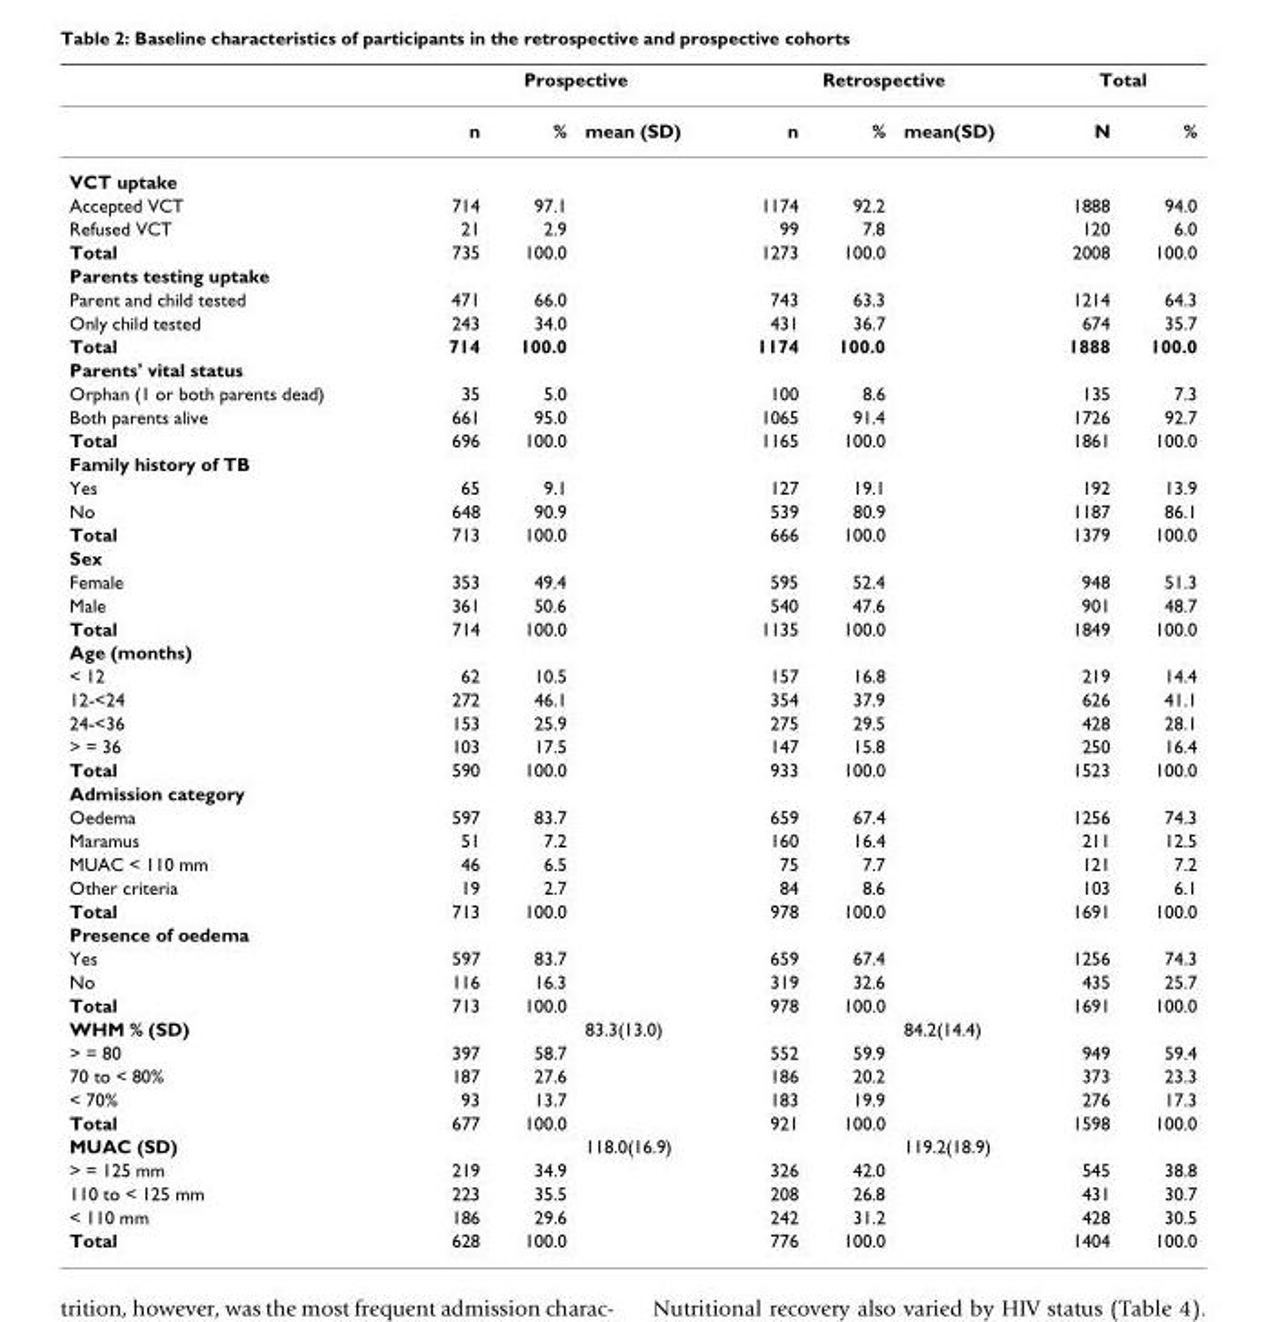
<table><thead><tr><td rowspan="2"></td><td colspan="3">Prospective</td><td colspan="3">Retrospective</td><td colspan="2">Total</td></tr><tr><td>n</td><td>%</td><td>mean (SD)</td><td>n</td><td>%</td><td>mean(SD)</td><td>N</td><td>%</td></tr></thead><tbody><tr><td colspan="9">VCT uptake</td></tr><tr><td>Accepted VCT</td><td>714</td><td>97.1</td><td></td><td>1174</td><td>92.2</td><td></td><td>1888</td><td>94.0</td></tr><tr><td>Refused VCT</td><td>21</td><td>2.9</td><td></td><td>99</td><td>7.8</td><td></td><td>120</td><td>6.0</td></tr><tr><td>Total</td><td>735</td><td>100.0</td><td></td><td>1273</td><td>100.0</td><td></td><td>2008</td><td>100.0</td></tr><tr><td colspan="9">Parents testing uptake</td></tr><tr><td>Parent and child tested</td><td>471</td><td>66.0</td><td></td><td>743</td><td>63.3</td><td></td><td>1214</td><td>64.3</td></tr><tr><td>Only child tested</td><td>243</td><td>34.0</td><td></td><td>431</td><td>36.7</td><td></td><td>674</td><td>35.7</td></tr><tr><td>Total</td><td>714</td><td>100.0</td><td></td><td>1174</td><td>100.0</td><td></td><td>1888</td><td>100.0</td></tr><tr><td colspan="9">Parents&#x27; vital status</td></tr><tr><td>Orphan (1 or both parents dead)</td><td>35</td><td>5.0</td><td></td><td>100</td><td>8.6</td><td></td><td>135</td><td>7.3</td></tr><tr><td>Both parents alive</td><td>661</td><td>95.0</td><td></td><td>1065</td><td>91.4</td><td></td><td>1726</td><td>92.7</td></tr><tr><td>Total</td><td>696</td><td>100.0</td><td></td><td>1165</td><td>100.0</td><td></td><td>1861</td><td>100.0</td></tr><tr><td colspan="9">Family history of TB</td></tr><tr><td>Yes</td><td>65</td><td>9.1</td><td></td><td>127</td><td>19.1</td><td></td><td>192</td><td>13.9</td></tr><tr><td>No</td><td>648</td><td>90.9</td><td></td><td>539</td><td>80.9</td><td></td><td>1187</td><td>86.1</td></tr><tr><td>Total</td><td>713</td><td>100.0</td><td></td><td>666</td><td>100.0</td><td></td><td>1379</td><td>100.0</td></tr><tr><td colspan="9">Sex</td></tr><tr><td>Female</td><td>353</td><td>49.4</td><td></td><td>595</td><td>52.4</td><td></td><td>948</td><td>51.3</td></tr><tr><td>Male</td><td>361</td><td>50.6</td><td></td><td>540</td><td>47.6</td><td></td><td>901</td><td>48.7</td></tr><tr><td>Total</td><td>714</td><td>100.0</td><td></td><td>1135</td><td>100.0</td><td></td><td>1849</td><td>100.0</td></tr><tr><td colspan="9">Age (months)</td></tr><tr><td>&lt; 12</td><td>62</td><td>10.5</td><td></td><td>157</td><td>16.8</td><td></td><td>219</td><td>14.4</td></tr><tr><td>12-&lt;24</td><td>272</td><td>46.1</td><td></td><td>354</td><td>37.9</td><td></td><td>626</td><td>41.1</td></tr><tr><td>24-&lt;36</td><td>153</td><td>25.9</td><td></td><td>275</td><td>29.5</td><td></td><td>428</td><td>28.1</td></tr><tr><td>&gt; = 36</td><td>103</td><td>17.5</td><td></td><td>147</td><td>15.8</td><td></td><td>250</td><td>16.4</td></tr><tr><td>Total</td><td>590</td><td>100.0</td><td></td><td>933</td><td>100.0</td><td></td><td>1523</td><td>100.0</td></tr><tr><td colspan="9">Admission category</td></tr><tr><td>Oedema</td><td>597</td><td>83.7</td><td></td><td>659</td><td>67.4</td><td></td><td>1256</td><td>74.3</td></tr><tr><td>Maramus</td><td>51</td><td>7.2</td><td></td><td>160</td><td>16.4</td><td></td><td>211</td><td>12.5</td></tr><tr><td>MUAC &lt; 110 mm</td><td>46</td><td>6.5</td><td></td><td>75</td><td>7.7</td><td></td><td>121</td><td>7.2</td></tr><tr><td>Other criteria</td><td>19</td><td>2.7</td><td></td><td>84</td><td>8.6</td><td></td><td>103</td><td>6.1</td></tr><tr><td>Total</td><td>713</td><td>100.0</td><td></td><td>978</td><td>100.0</td><td></td><td>1691</td><td>100.0</td></tr><tr><td colspan="9">Presence of oedema</td></tr><tr><td>Yes</td><td>597</td><td>83.7</td><td></td><td>659</td><td>67.4</td><td></td><td>1256</td><td>74.3</td></tr><tr><td>No</td><td>116</td><td>16.3</td><td></td><td>319</td><td>32.6</td><td></td><td>435</td><td>25.7</td></tr><tr><td>Total</td><td>713</td><td>100.0</td><td></td><td>978</td><td>100.0</td><td></td><td>1691</td><td>100.0</td></tr><tr><td>WHM % (SD)</td><td></td><td></td><td>83.3(13.0)</td><td></td><td></td><td>84.2(14.4)</td><td></td><td></td></tr><tr><td>&gt; = 80</td><td>397</td><td>58.7</td><td></td><td>552</td><td>59.9</td><td></td><td>949</td><td>59.4</td></tr><tr><td>70 to &lt; 80%</td><td>187</td><td>27.6</td><td></td><td>186</td><td>20.2</td><td></td><td>373</td><td>23.3</td></tr><tr><td>&lt; 70%</td><td>93</td><td>13.7</td><td></td><td>183</td><td>19.9</td><td></td><td>276</td><td>17.3</td></tr><tr><td>Total</td><td>677</td><td>100.0</td><td></td><td>921</td><td>100.0</td><td></td><td>1598</td><td>100.0</td></tr><tr><td>MUAC (SD)</td><td></td><td></td><td>118.0(16.9)</td><td></td><td></td><td>119.2(18.9)</td><td></td><td></td></tr><tr><td>&gt; = 125 mm</td><td>219</td><td>34.9</td><td></td><td>326</td><td>42.0</td><td></td><td>545</td><td>38.8</td></tr><tr><td>110 to &lt; 125 mm</td><td>223</td><td>35.5</td><td></td><td>208</td><td>26.8</td><td></td><td>431</td><td>30.7</td></tr><tr><td>&lt; 110 mm</td><td>186</td><td>29.6</td><td></td><td>242</td><td>31.2</td><td></td><td>428</td><td>30.5</td></tr><tr><td>Total</td><td>628</td><td>100.0</td><td></td><td>776</td><td>100.0</td><td></td><td>1404</td><td>100.0</td></tr></tbody></table>